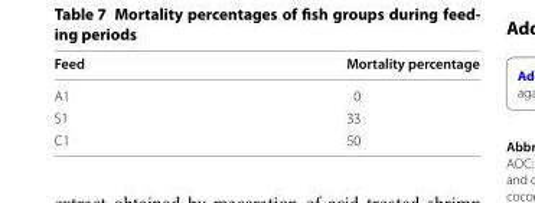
<table><thead><tr><td>Feed</td><td>Mortality percentage</td></tr></thead><tbody><tr><td>A1</td><td>0</td></tr><tr><td>S1</td><td>33</td></tr><tr><td>C1</td><td>50</td></tr></tbody></table>